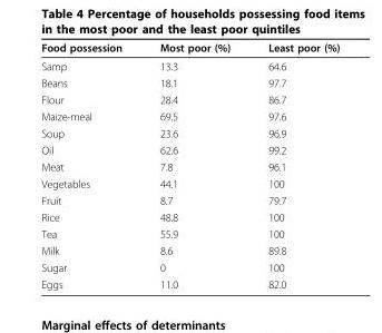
<table><thead><tr><td>Food possession</td><td>Most poor (%)</td><td>Least poor (%)</td></tr></thead><tbody><tr><td>Samp</td><td>13.3</td><td>64.6</td></tr><tr><td>Beans</td><td>18.1</td><td>97.7</td></tr><tr><td>Flour</td><td>28.4</td><td>86.7</td></tr><tr><td>Maize-meal</td><td>69.5</td><td>97.6</td></tr><tr><td>Soup</td><td>23.6</td><td>96.9</td></tr><tr><td>Oil</td><td>62.6</td><td>99.2</td></tr><tr><td>Meat</td><td>7.8</td><td>96.1</td></tr><tr><td>Vegetables</td><td>44.1</td><td>100</td></tr><tr><td>Fruit</td><td>8.7</td><td>79.7</td></tr><tr><td>Rice</td><td>48.8</td><td>100</td></tr><tr><td>Tea</td><td>55.9</td><td>100</td></tr><tr><td>Milk</td><td>8.6</td><td>89.8</td></tr><tr><td>Sugar</td><td>0</td><td>100</td></tr><tr><td>Eggs</td><td>11.0</td><td>82.0</td></tr></tbody></table>